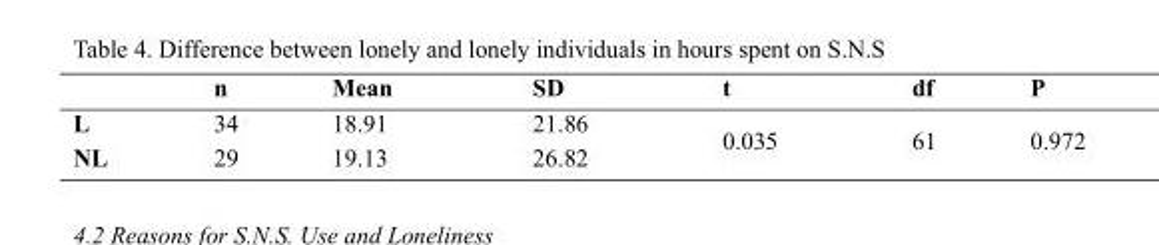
<table><thead><tr><td></td><td>n</td><td>Mean</td><td>SD</td><td>t</td><td>df</td><td>P</td></tr></thead><tbody><tr><td>L</td><td>34</td><td>18.91</td><td>21.86</td><td rowspan="2">0.035</td><td rowspan="2">61</td><td rowspan="2">0.972</td></tr><tr><td>NL</td><td>29</td><td>19.13</td><td>26.82</td></tr></tbody></table>